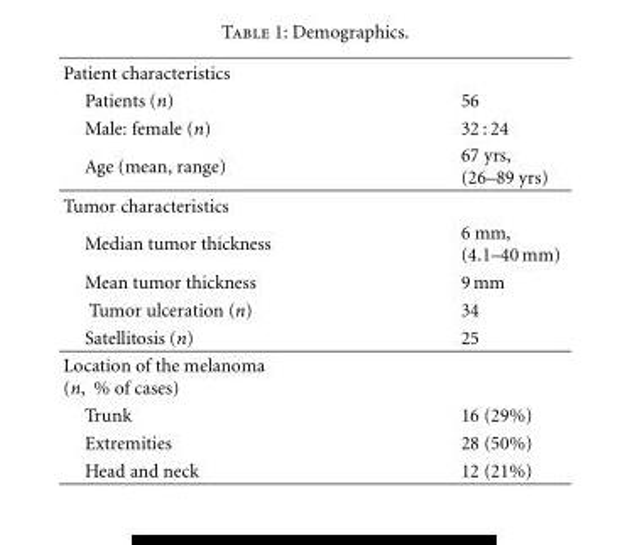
<table><tbody><tr><td colspan="2">Patient characteristics</td></tr><tr><td>Patients (n)</td><td>56</td></tr><tr><td>Male: female (n)</td><td>32 : 24</td></tr><tr><td>Age (mean, range)</td><td>67 yrs, (26–89 yrs)</td></tr><tr><td colspan="2">Tumor characteristics</td></tr><tr><td>Median tumor thickness</td><td>6 mm, (4.1–40 mm)</td></tr><tr><td>Mean tumor thickness</td><td>9 mm</td></tr><tr><td>Tumor ulceration (n)</td><td>34</td></tr><tr><td>Satellitosis (n)</td><td>25</td></tr><tr><td colspan="2">Location of the melanoma (n, % of cases)</td></tr><tr><td>Trunk</td><td>16 (29%)</td></tr><tr><td>Extremities</td><td>28 (50%)</td></tr><tr><td>Head and neck</td><td>12 (21%)</td></tr></tbody></table>